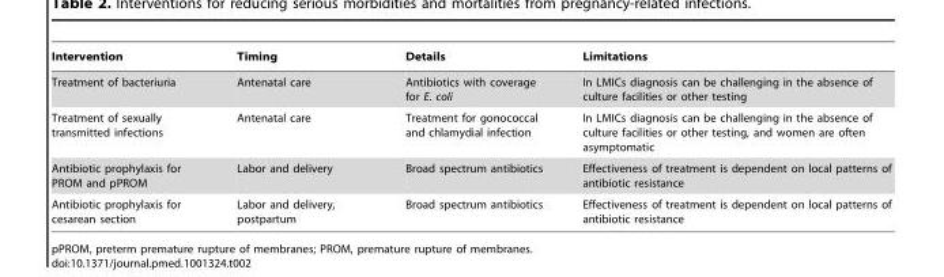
<table><thead><tr><td>Intervention</td><td>Timing</td><td>Details</td><td>Limitations</td></tr></thead><tbody><tr><td>Treatment of bacteriuria</td><td>Antenatal care</td><td>Antibiotics with coverage for E. coli</td><td>In LMICs diagnosis can be challenging in the absence of culture facilities or other testing</td></tr><tr><td>Treatment of sexually transmitted infections</td><td>Antenatal care</td><td>Treatment for gonococcal and chlamydial infection</td><td>In LMICs diagnosis can be challenging in the absence of culture facilities or other testing, and women are often asymptomatic</td></tr><tr><td>Antibiotic prophylaxis for PROM and pPROM</td><td>Labor and delivery</td><td>Broad spectrum antibiotics</td><td>Effectiveness of treatment is dependent on local patterns of antibiotic resistance</td></tr><tr><td>Antibiotic prophylaxis for cesarean section</td><td>Labor and delivery, postpartum</td><td>Broad spectrum antibiotics</td><td>Effectiveness of treatment is dependent on local patterns of antibiotic resistance</td></tr></tbody></table>